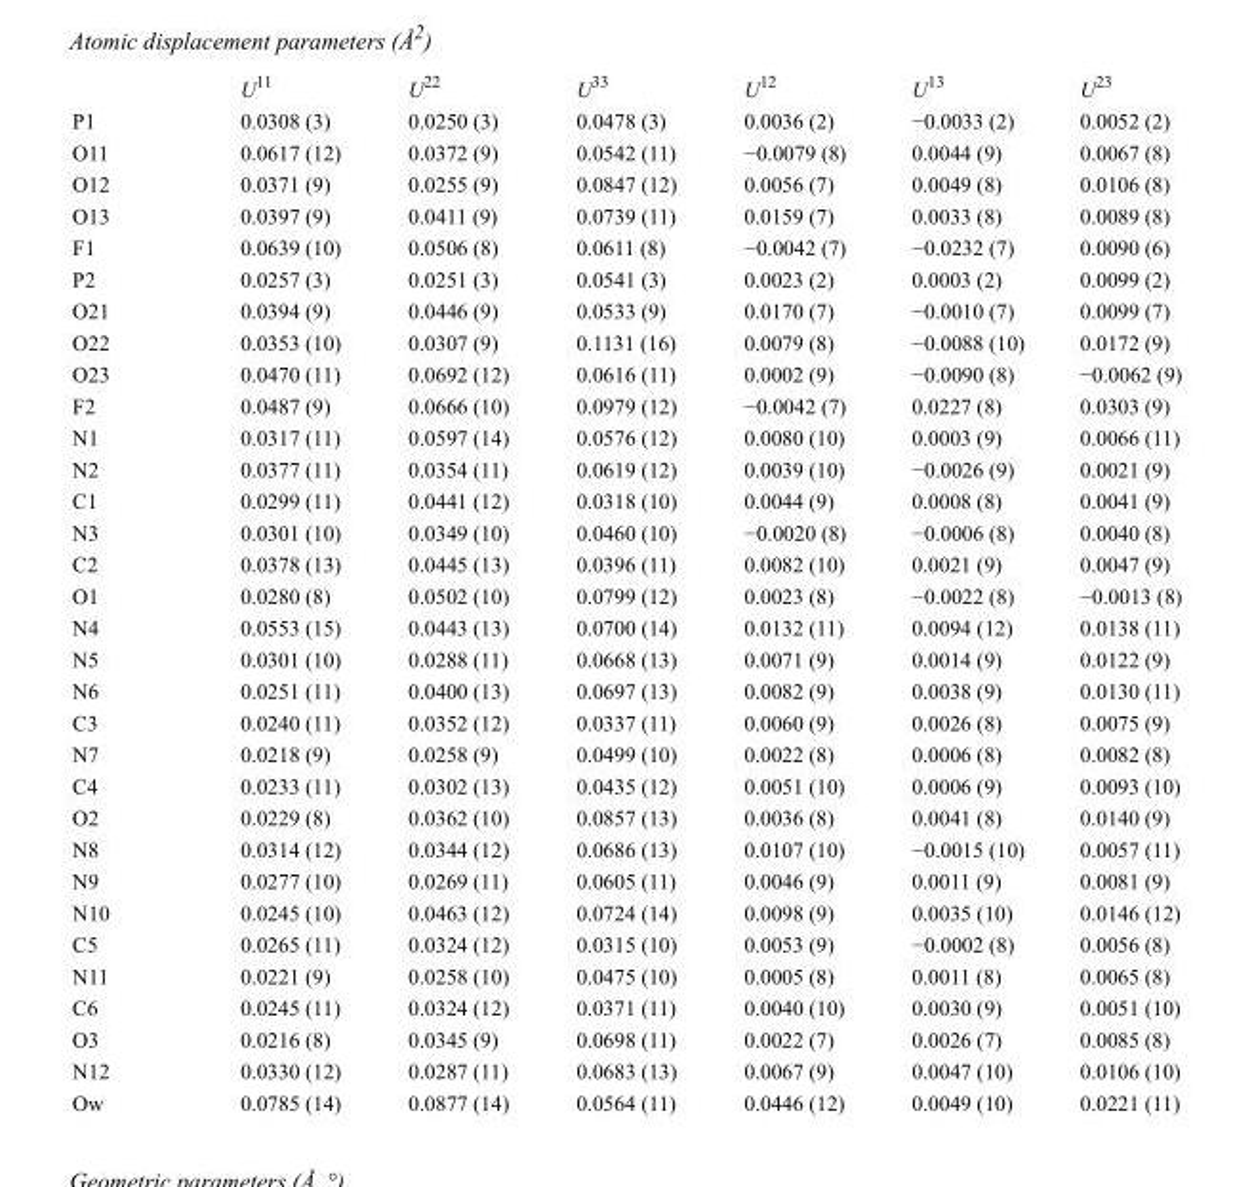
<table><thead><tr><td></td><td>U<sup>11</sup></td><td>U<sup>22</sup></td><td>U<sup>33</sup></td><td>U<sup>12</sup></td><td>U<sup>13</sup></td><td>U<sup>23</sup></td></tr></thead><tbody><tr><td>P1</td><td>0.0308 (3)</td><td>0.0250 (3)</td><td>0.0478 (3)</td><td>0.0036 (2)</td><td>−0.0033 (2)</td><td>0.0052 (2)</td></tr><tr><td>O11</td><td>0.0617 (12)</td><td>0.0372 (9)</td><td>0.0542 (11)</td><td>−0.0079 (8)</td><td>0.0044 (9)</td><td>0.0067 (8)</td></tr><tr><td>O12</td><td>0.0371 (9)</td><td>0.0255 (9)</td><td>0.0847 (12)</td><td>0.0056 (7)</td><td>0.0049 (8)</td><td>0.0106 (8)</td></tr><tr><td>O13</td><td>0.0397 (9)</td><td>0.0411 (9)</td><td>0.0739 (11)</td><td>0.0159 (7)</td><td>0.0033 (8)</td><td>0.0089 (8)</td></tr><tr><td>F1</td><td>0.0639 (10)</td><td>0.0506 (8)</td><td>0.0611 (8)</td><td>−0.0042 (7)</td><td>−0.0232 (7)</td><td>0.0090 (6)</td></tr><tr><td>P2</td><td>0.0257 (3)</td><td>0.0251 (3)</td><td>0.0541 (3)</td><td>0.0023 (2)</td><td>0.0003 (2)</td><td>0.0099 (2)</td></tr><tr><td>O21</td><td>0.0394 (9)</td><td>0.0446 (9)</td><td>0.0533 (9)</td><td>0.0170 (7)</td><td>−0.0010 (7)</td><td>0.0099 (7)</td></tr><tr><td>O22</td><td>0.0353 (10)</td><td>0.0307 (9)</td><td>0.1131 (16)</td><td>0.0079 (8)</td><td>−0.0088 (10)</td><td>0.0172 (9)</td></tr><tr><td>O23</td><td>0.0470 (11)</td><td>0.0692 (12)</td><td>0.0616 (11)</td><td>0.0002 (9)</td><td>−0.0090 (8)</td><td>−0.0062 (9)</td></tr><tr><td>F2</td><td>0.0487 (9)</td><td>0.0666 (10)</td><td>0.0979 (12)</td><td>−0.0042 (7)</td><td>0.0227 (8)</td><td>0.0303 (9)</td></tr><tr><td>N1</td><td>0.0317 (11)</td><td>0.0597 (14)</td><td>0.0576 (12)</td><td>0.0080 (10)</td><td>0.0003 (9)</td><td>0.0066 (11)</td></tr><tr><td>N2</td><td>0.0377 (11)</td><td>0.0354 (11)</td><td>0.0619 (12)</td><td>0.0039 (10)</td><td>−0.0026 (9)</td><td>0.0021 (9)</td></tr><tr><td>C1</td><td>0.0299 (11)</td><td>0.0441 (12)</td><td>0.0318 (10)</td><td>0.0044 (9)</td><td>0.0008 (8)</td><td>0.0041 (9)</td></tr><tr><td>N3</td><td>0.0301 (10)</td><td>0.0349 (10)</td><td>0.0460 (10)</td><td>−0.0020 (8)</td><td>−0.0006 (8)</td><td>0.0040 (8)</td></tr><tr><td>C2</td><td>0.0378 (13)</td><td>0.0445 (13)</td><td>0.0396 (11)</td><td>0.0082 (10)</td><td>0.0021 (9)</td><td>0.0047 (9)</td></tr><tr><td>O1</td><td>0.0280 (8)</td><td>0.0502 (10)</td><td>0.0799 (12)</td><td>0.0023 (8)</td><td>−0.0022 (8)</td><td>−0.0013 (8)</td></tr><tr><td>N4</td><td>0.0553 (15)</td><td>0.0443 (13)</td><td>0.0700 (14)</td><td>0.0132 (11)</td><td>0.0094 (12)</td><td>0.0138 (11)</td></tr><tr><td>N5</td><td>0.0301 (10)</td><td>0.0288 (11)</td><td>0.0668 (13)</td><td>0.0071 (9)</td><td>0.0014 (9)</td><td>0.0122 (9)</td></tr><tr><td>N6</td><td>0.0251 (11)</td><td>0.0400 (13)</td><td>0.0697 (13)</td><td>0.0082 (9)</td><td>0.0038 (9)</td><td>0.0130 (11)</td></tr><tr><td>C3</td><td>0.0240 (11)</td><td>0.0352 (12)</td><td>0.0337 (11)</td><td>0.0060 (9)</td><td>0.0026 (8)</td><td>0.0075 (9)</td></tr><tr><td>N7</td><td>0.0218 (9)</td><td>0.0258 (9)</td><td>0.0499 (10)</td><td>0.0022 (8)</td><td>0.0006 (8)</td><td>0.0082 (8)</td></tr><tr><td>C4</td><td>0.0233 (11)</td><td>0.0302 (13)</td><td>0.0435 (12)</td><td>0.0051 (10)</td><td>0.0006 (9)</td><td>0.0093 (10)</td></tr><tr><td>O2</td><td>0.0229 (8)</td><td>0.0362 (10)</td><td>0.0857 (13)</td><td>0.0036 (8)</td><td>0.0041 (8)</td><td>0.0140 (9)</td></tr><tr><td>N8</td><td>0.0314 (12)</td><td>0.0344 (12)</td><td>0.0686 (13)</td><td>0.0107 (10)</td><td>−0.0015 (10)</td><td>0.0057 (11)</td></tr><tr><td>N9</td><td>0.0277 (10)</td><td>0.0269 (11)</td><td>0.0605 (11)</td><td>0.0046 (9)</td><td>0.0011 (9)</td><td>0.0081 (9)</td></tr><tr><td>N10</td><td>0.0245 (10)</td><td>0.0463 (12)</td><td>0.0724 (14)</td><td>0.0098 (9)</td><td>0.0035 (10)</td><td>0.0146 (12)</td></tr><tr><td>C5</td><td>0.0265 (11)</td><td>0.0324 (12)</td><td>0.0315 (10)</td><td>0.0053 (9)</td><td>−0.0002 (8)</td><td>0.0056 (8)</td></tr><tr><td>N11</td><td>0.0221 (9)</td><td>0.0258 (10)</td><td>0.0475 (10)</td><td>0.0005 (8)</td><td>0.0011 (8)</td><td>0.0065 (8)</td></tr><tr><td>C6</td><td>0.0245 (11)</td><td>0.0324 (12)</td><td>0.0371 (11)</td><td>0.0040 (10)</td><td>0.0030 (9)</td><td>0.0051 (10)</td></tr><tr><td>O3</td><td>0.0216 (8)</td><td>0.0345 (9)</td><td>0.0698 (11)</td><td>0.0022 (7)</td><td>0.0026 (7)</td><td>0.0085 (8)</td></tr><tr><td>N12</td><td>0.0330 (12)</td><td>0.0287 (11)</td><td>0.0683 (13)</td><td>0.0067 (9)</td><td>0.0047 (10)</td><td>0.0106 (10)</td></tr><tr><td>Ow</td><td>0.0785 (14)</td><td>0.0877 (14)</td><td>0.0564 (11)</td><td>0.0446 (12)</td><td>0.0049 (10)</td><td>0.0221 (11)</td></tr></tbody></table>